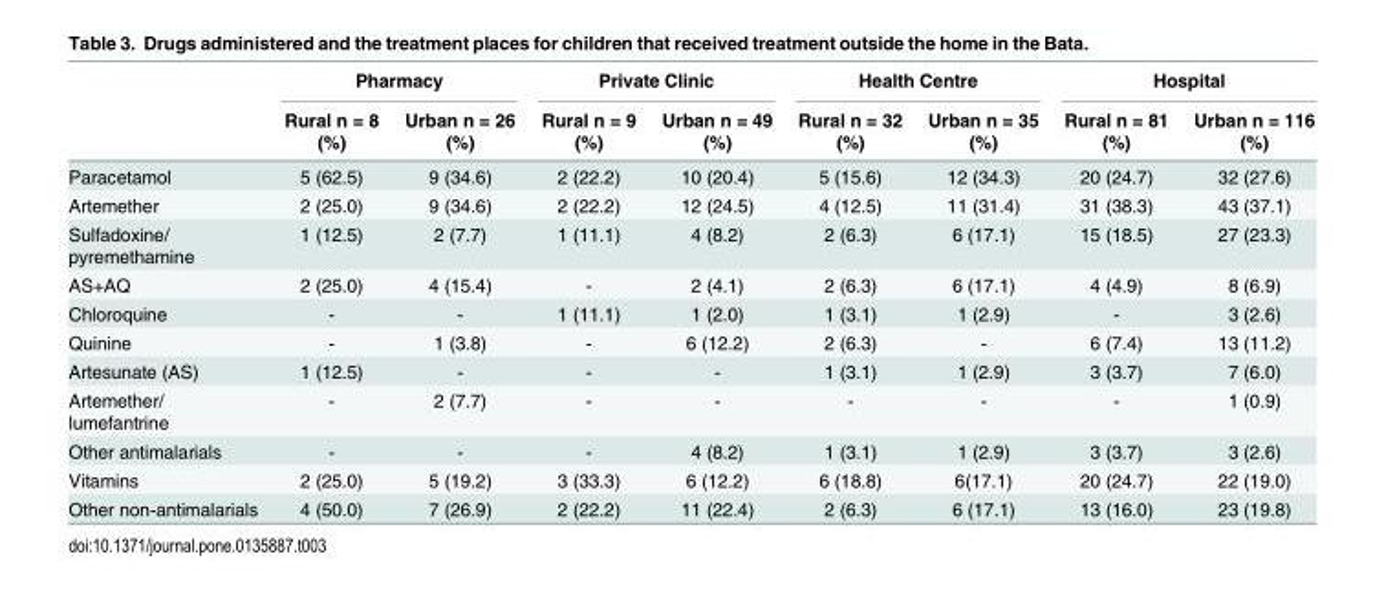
<table><thead><tr><td rowspan="2"></td><td colspan="2">Pharmacy</td><td colspan="2">Private Clinic</td><td colspan="2">Health Centre</td><td colspan="2">Hospital</td></tr><tr><td>Rural n = 8 (%)</td><td>Urban n = 26 (%)</td><td>Rural n = 9 (%)</td><td>Urban n = 49 (%)</td><td>Rural n = 32 (%)</td><td>Urban n = 35 (%)</td><td>Rural n = 81 (%)</td><td>Urban n = 116 (%)</td></tr></thead><tbody><tr><td>Paracetamol</td><td>5 (62.5)</td><td>9 (34.6)</td><td>2 (22.2)</td><td>10 (20.4)</td><td>5 (15.6)</td><td>12 (34.3)</td><td>20 (24.7)</td><td>32 (27.6)</td></tr><tr><td>Artemether</td><td>2 (25.0)</td><td>9 (34.6)</td><td>2 (22.2)</td><td>12 (24.5)</td><td>4 (12.5)</td><td>11 (31.4)</td><td>31 (38.3)</td><td>43 (37.1)</td></tr><tr><td>Sulfadoxine/ pyremethamine</td><td>1 (12.5)</td><td>2 (7.7)</td><td>1 (11.1)</td><td>4 (8.2)</td><td>2 (6.3)</td><td>6 (17.1)</td><td>15 (18.5)</td><td>27 (23.3)</td></tr><tr><td>AS+AQ</td><td>2 (25.0)</td><td>4 (15.4)</td><td>-</td><td>2 (4.1)</td><td>2 (6.3)</td><td>6 (17.1)</td><td>4 (4.9)</td><td>8 (6.9)</td></tr><tr><td>Chloroquine</td><td>-</td><td>-</td><td>1 (11.1)</td><td>1 (2.0)</td><td>1 (3.1)</td><td>1 (2.9)</td><td>-</td><td>3 (2.6)</td></tr><tr><td>Quinine</td><td>-</td><td>1 (3.8)</td><td>-</td><td>6 (12.2)</td><td>2 (6.3)</td><td>-</td><td>6 (7.4)</td><td>13 (11.2)</td></tr><tr><td>Artesunate (AS)</td><td>1 (12.5)</td><td>-</td><td>-</td><td>-</td><td>1 (3.1)</td><td>1 (2.9)</td><td>3 (3.7)</td><td>7 (6.0)</td></tr><tr><td>Artemether/ lumefantrine</td><td>-</td><td>2 (7.7)</td><td>-</td><td>-</td><td>-</td><td>-</td><td>-</td><td>1 (0.9)</td></tr><tr><td>Other antimalarials</td><td>-</td><td>-</td><td>-</td><td>4 (8.2)</td><td>1 (3.1)</td><td>1 (2.9)</td><td>3 (3.7)</td><td>3 (2.6)</td></tr><tr><td>Vitamins</td><td>2 (25.0)</td><td>5 (19.2)</td><td>3 (33.3)</td><td>6 (12.2)</td><td>6 (18.8)</td><td>6(17.1)</td><td>20 (24.7)</td><td>22 (19.0)</td></tr><tr><td>Other non-antimalarials</td><td>4 (50.0)</td><td>7 (26.9)</td><td>2 (22.2)</td><td>11 (22.4)</td><td>2 (6.3)</td><td>6 (17.1)</td><td>13 (16.0)</td><td>23 (19.8)</td></tr></tbody></table>